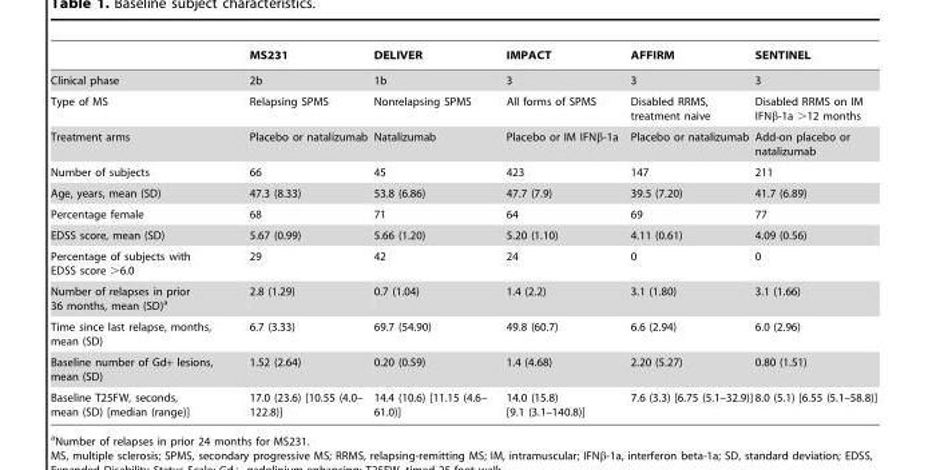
<table><thead><tr><td></td><td>MS231</td><td>DELIVER</td><td>IMPACT</td><td>AFFIRM</td><td>SENTINEL</td></tr></thead><tbody><tr><td>Clinical phase</td><td>2b</td><td>1b</td><td>3</td><td>3</td><td>3</td></tr><tr><td>Type of MS</td><td>Relapsing SPMS</td><td>Nonrelapsing SPMS</td><td>All forms of SPMS</td><td>Disabled RRMS, treatment naive</td><td>Disabled RRMS on IM IFNβ-1a &gt;12 months</td></tr><tr><td>Treatment arms</td><td>Placebo or natalizumab</td><td>Natalizumab</td><td>Placebo or IM IFNβ-1a</td><td>Placebo or natalizumab</td><td>Add-on placebo or natalizumab</td></tr><tr><td>Number of subjects</td><td>66</td><td>45</td><td>423</td><td>147</td><td>211</td></tr><tr><td>Age, years, mean (SD)</td><td>47.3 (8.33)</td><td>53.8 (6.86)</td><td>47.7 (7.9)</td><td>39.5 (7.20)</td><td>41.7 (6.89)</td></tr><tr><td>Percentage female</td><td>68</td><td>71</td><td>64</td><td>69</td><td>77</td></tr><tr><td>EDSS score, mean (SD)</td><td>5.67 (0.99)</td><td>5.66 (1.20)</td><td>5.20 (1.10)</td><td>4.11 (0.61)</td><td>4.09 (0.56)</td></tr><tr><td>Percentage of subjects with EDSS score &gt;6.0</td><td>29</td><td>42</td><td>24</td><td>0</td><td>0</td></tr><tr><td>Number of relapses in prior 36 months, mean (SD)<sup>a</sup></td><td>2.8 (1.29)</td><td>0.7 (1.04)</td><td>1.4 (2.2)</td><td>3.1 (1.80)</td><td>3.1 (1.66)</td></tr><tr><td>Time since last relapse, months, mean (SD)</td><td>6.7 (3.33)</td><td>69.7 (54.90)</td><td>49.8 (60.7)</td><td>6.6 (2.94)</td><td>6.0 (2.96)</td></tr><tr><td>Baseline number of Gd+ lesions, mean (SD)</td><td>1.52 (2.64)</td><td>0.20 (0.59)</td><td>1.4 (4.68)</td><td>2.20 (5.27)</td><td>0.80 (1.51)</td></tr><tr><td>Baseline T25FW, seconds, mean (SD) [median (range)]</td><td>17.0 (23.6) [10.55 (4.0– 122.8)]</td><td>14.4 (10.6) [11.15 (4.6– 61.0)]</td><td>14.0 (15.8) [9.1 (3.1–140.8)]</td><td>7.6 (3.3) [6.75 (5.1–32.9)]</td><td>8.0 (5.1) [6.55 (5.1–58.8)]</td></tr></tbody></table>